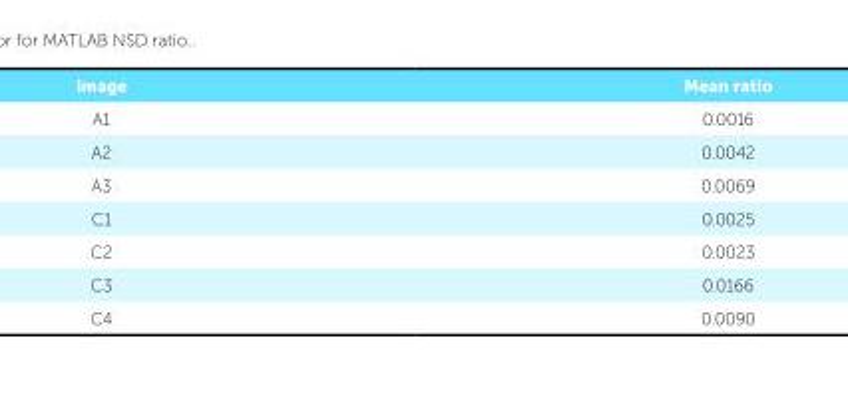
<table><thead><tr><td>Image</td><td>Mean ratio</td></tr></thead><tbody><tr><td>A1</td><td>0.0016</td></tr><tr><td>A2</td><td>0.0042</td></tr><tr><td>A3</td><td>0.0069</td></tr><tr><td>C1</td><td>0.0025</td></tr><tr><td>C2</td><td>0.0023</td></tr><tr><td>C3</td><td>0.0166</td></tr><tr><td>C4</td><td>0.0090</td></tr></tbody></table>